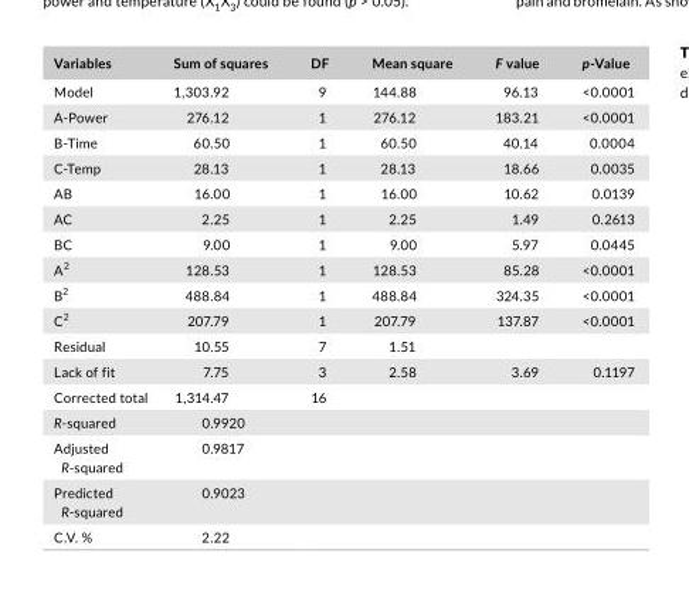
<table><thead><tr><td>Variables</td><td>Sum of squares</td><td>DF</td><td>Mean square</td><td>F value</td><td>p- Value</td></tr></thead><tbody><tr><td>Model</td><td>1,303.92</td><td>9</td><td>144.88</td><td>96.13</td><td>&lt;0.0001</td></tr><tr><td>A- Power</td><td>276.12</td><td>1</td><td>276.12</td><td>183.21</td><td>&lt;0.0001</td></tr><tr><td>B- Time</td><td>60.50</td><td>1</td><td>60.50</td><td>40.14</td><td>0.0004</td></tr><tr><td>C- Temp</td><td>28.13</td><td>1</td><td>28.13</td><td>18.66</td><td>0.0035</td></tr><tr><td>AB</td><td>16.00</td><td>1</td><td>16.00</td><td>10.62</td><td>0.0139</td></tr><tr><td>AC</td><td>2.25</td><td>1</td><td>2.25</td><td>1.49</td><td>0.2613</td></tr><tr><td>BC</td><td>9.00</td><td>1</td><td>9.00</td><td>5.97</td><td>0.0445</td></tr><tr><td>A<sup>2</sup></td><td>128.53</td><td>1</td><td>128.53</td><td>85.28</td><td>&lt;0.0001</td></tr><tr><td>B<sup>2</sup></td><td>488.84</td><td>1</td><td>488.84</td><td>324.35</td><td>&lt;0.0001</td></tr><tr><td>C<sup>2</sup></td><td>207.79</td><td>1</td><td>207.79</td><td>137.87</td><td>&lt;0.0001</td></tr><tr><td>Residual</td><td>10.55</td><td>7</td><td>1.51</td><td></td><td></td></tr><tr><td>Lack of fit</td><td>7.75</td><td>3</td><td>2.58</td><td>3.69</td><td>0.1197</td></tr><tr><td>Corrected total</td><td>1,314.47</td><td>16</td><td></td><td></td><td></td></tr><tr><td>R- squared</td><td>0.9920</td><td></td><td></td><td></td><td></td></tr><tr><td>Adjusted R- squared</td><td>0.9817</td><td></td><td></td><td></td><td></td></tr><tr><td>Predicted R- squared</td><td>0.9023</td><td></td><td></td><td></td><td></td></tr><tr><td>C.V. %</td><td>2.22</td><td></td><td></td><td></td><td></td></tr></tbody></table>